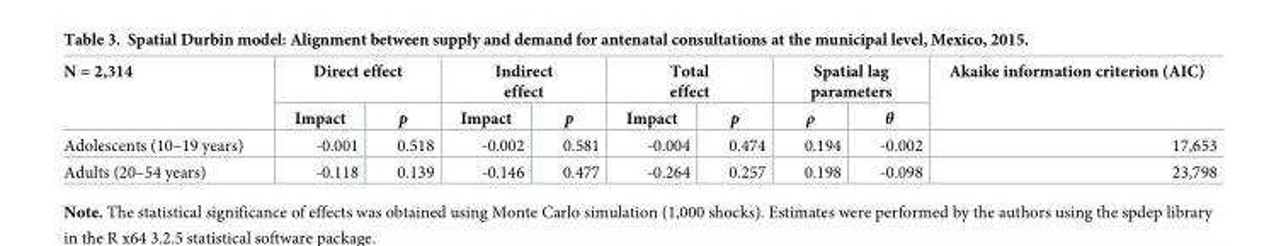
<table><thead><tr><td rowspan="2">N = 2,314</td><td colspan="2">Direct effect</td><td colspan="2">Indirect effect</td><td colspan="2">Total effect</td><td colspan="2">Spatial lag parameters</td><td rowspan="2">Akaike information criterion (AIC)</td></tr><tr><td>Impact</td><td>p</td><td>Impact</td><td>p</td><td>Impact</td><td>p</td><td>ρ</td><td>θ</td></tr></thead><tbody><tr><td>Adolescents (10–19 years)</td><td>-0.001</td><td>0.518</td><td>-0.002</td><td>0.581</td><td>-0.004</td><td>0.474</td><td>0.194</td><td>-0.002</td><td>17,653</td></tr><tr><td>Adults (20–54 years)</td><td>-0.118</td><td>0.139</td><td>-0.146</td><td>0.477</td><td>-0.264</td><td>0.257</td><td>0.198</td><td>-0.098</td><td>23,798</td></tr></tbody></table>